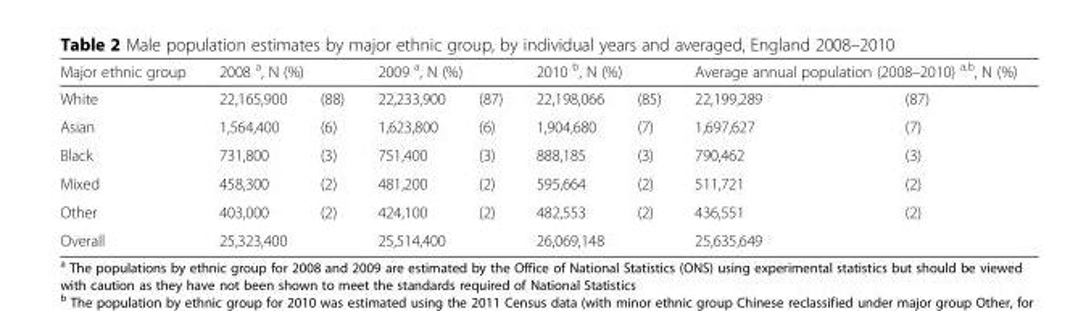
<table><thead><tr><td rowspan="2">Major ethnic group White</td><td colspan="2">2008 <sup>a</sup>, N (%)</td><td colspan="2">2009 <sup>a</sup>, N (%)</td><td colspan="2">2010 <sup>b</sup>, N (%)</td><td colspan="2">Average annual population (2008–2010) <sup>a,b</sup>, N (%)</td></tr><tr><td>22,165,900</td><td>(88)</td><td>22,233,900</td><td>(87)</td><td>22,198,066</td><td>(85)</td><td>22,199,289</td><td>(87)</td></tr></thead><tbody><tr><td>Asian</td><td>1,564,400</td><td>(6)</td><td>1,623,800</td><td>(6)</td><td>1,904,680</td><td>(7)</td><td>1,697,627</td><td>(7)</td></tr><tr><td>Black</td><td>731,800</td><td>(3)</td><td>751,400</td><td>(3)</td><td>888,185</td><td>(3)</td><td>790,462</td><td>(3)</td></tr><tr><td>Mixed</td><td>458,300</td><td>(2)</td><td>481,200</td><td>(2)</td><td>595,664</td><td>(2)</td><td>511,721</td><td>(2)</td></tr><tr><td>Other</td><td>403,000</td><td>(2)</td><td>424,100</td><td>(2)</td><td>482,553</td><td>(2)</td><td>436,551</td><td>(2)</td></tr><tr><td>Overall</td><td>25,323,400</td><td></td><td>25,514,400</td><td></td><td>26,069,148</td><td></td><td>25,635,649</td><td></td></tr></tbody></table>